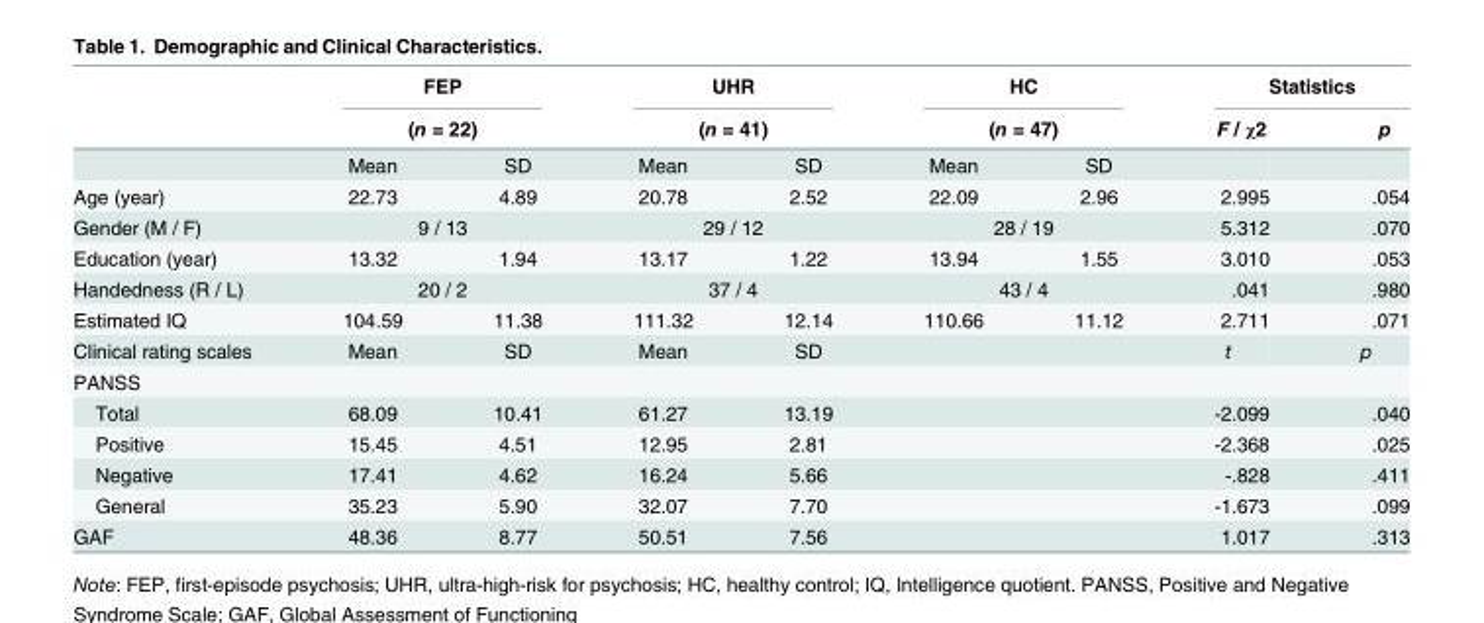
<table><thead><tr><td rowspan="3"></td><td rowspan="2" colspan="2">FEP (n = 22)</td><td rowspan="2" colspan="2">UHR (n = 41)</td><td rowspan="2" colspan="2">HC (n = 47)</td><td colspan="2">Statistics</td></tr><tr><td rowspan="2">F / χ2</td><td rowspan="2">p</td></tr><tr><td>Mean</td><td>SD</td><td>Mean</td><td>SD</td><td>Mean</td><td>SD</td></tr></thead><tbody><tr><td>Age (year)</td><td>22.73</td><td>4.89</td><td>20.78</td><td>2.52</td><td>22.09</td><td>2.96</td><td>2.995</td><td>.054</td></tr><tr><td>Gender (M / F)</td><td colspan="2">9 / 13</td><td colspan="2">29 / 12</td><td colspan="2">28 / 19</td><td>5.312</td><td>.070</td></tr><tr><td>Education (year)</td><td>13.32</td><td>1.94</td><td>13.17</td><td>1.22</td><td>13.94</td><td>1.55</td><td>3.010</td><td>.053</td></tr><tr><td>Handedness (R / L)</td><td colspan="2">20 / 2</td><td colspan="2">37 / 4</td><td colspan="2">43 / 4</td><td>.041</td><td>.980</td></tr><tr><td>Estimated IQ</td><td>104.59</td><td>11.38</td><td>111.32</td><td>12.14</td><td>110.66</td><td>11.12</td><td>2.711</td><td>.071</td></tr><tr><td>Clinical rating scales</td><td>Mean</td><td>SD</td><td>Mean</td><td>SD</td><td></td><td></td><td>t</td><td>p</td></tr><tr><td colspan="9">PANSS</td></tr><tr><td>Total</td><td>68.09</td><td>10.41</td><td>61.27</td><td>13.19</td><td></td><td></td><td>-2.099</td><td>.040</td></tr><tr><td>Positive</td><td>15.45</td><td>4.51</td><td>12.95</td><td>2.81</td><td></td><td></td><td>-2.368</td><td>.025</td></tr><tr><td>Negative</td><td>17.41</td><td>4.62</td><td>16.24</td><td>5.66</td><td></td><td></td><td>-.828</td><td>.411</td></tr><tr><td>General</td><td>35.23</td><td>5.90</td><td>32.07</td><td>7.70</td><td></td><td></td><td>-1.673</td><td>.099</td></tr><tr><td>GAF</td><td>48.36</td><td>8.77</td><td>50.51</td><td>7.56</td><td></td><td></td><td>1.017</td><td>.313</td></tr></tbody></table>